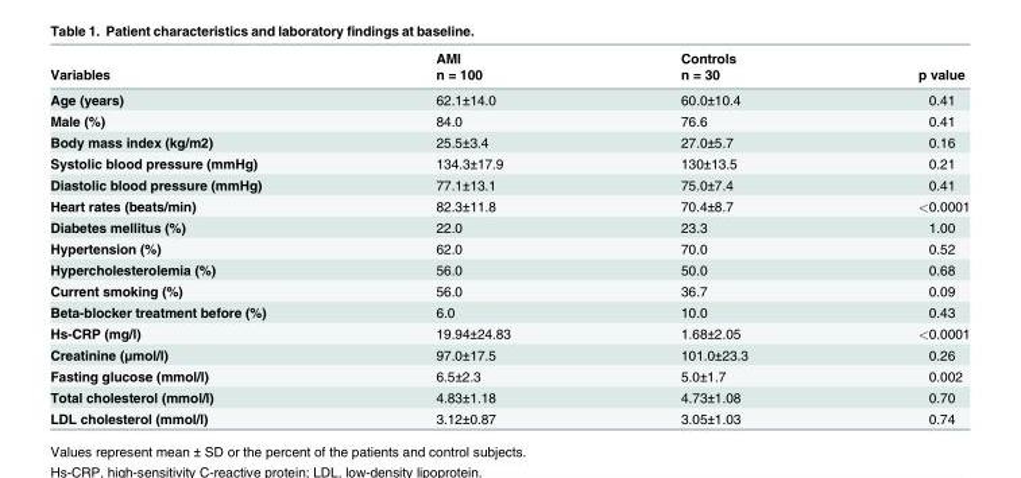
<table><thead><tr><td rowspan="2">Variables</td><td rowspan="2">AMI n = 100</td><td rowspan="2">Controls n = 30</td><td rowspan="2">p value</td></tr><tr></tr></thead><tbody><tr><td>Age (years)</td><td>62.1±14.0</td><td>60.0±10.4</td><td>0.41</td></tr><tr><td>Male (%)</td><td>84.0</td><td>76.6</td><td>0.41</td></tr><tr><td>Body mass index (kg/m2)</td><td>25.5±3.4</td><td>27.0±5.7</td><td>0.16</td></tr><tr><td>Systolic blood pressure (mmHg)</td><td>134.3±17.9</td><td>130±13.5</td><td>0.21</td></tr><tr><td>Diastolic blood pressure (mmHg)</td><td>77.1±13.1</td><td>75.0±7.4</td><td>0.41</td></tr><tr><td>Heart rates (beats/min)</td><td>82.3±11.8</td><td>70.4±8.7</td><td>&lt;0.0001</td></tr><tr><td>Diabetes mellitus (%)</td><td>22.0</td><td>23.3</td><td>1.00</td></tr><tr><td>Hypertension (%)</td><td>62.0</td><td>70.0</td><td>0.52</td></tr><tr><td>Hypercholesterolemia (%)</td><td>56.0</td><td>50.0</td><td>0.68</td></tr><tr><td>Current smoking (%)</td><td>56.0</td><td>36.7</td><td>0.09</td></tr><tr><td>Beta-blocker treatment before (%)</td><td>6.0</td><td>10.0</td><td>0.43</td></tr><tr><td>Hs-CRP (mg/l)</td><td>19.94±24.83</td><td>1.68±2.05</td><td>&lt;0.0001</td></tr><tr><td>Creatinine (μmol/l)</td><td>97.0±17.5</td><td>101.0±23.3</td><td>0.26</td></tr><tr><td>Fasting glucose (mmol/l)</td><td>6.5±2.3</td><td>5.0±1.7</td><td>0.002</td></tr><tr><td>Total cholesterol (mmol/l)</td><td>4.83±1.18</td><td>4.73±1.08</td><td>0.70</td></tr><tr><td>LDL cholesterol (mmol/l)</td><td>3.12±0.87</td><td>3.05±1.03</td><td>0.74</td></tr></tbody></table>